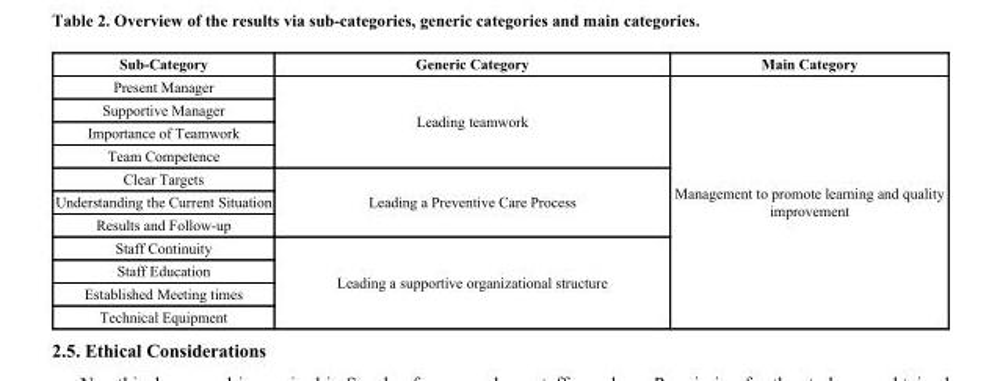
<table><thead><tr><td>Sub-Category</td><td>Generic Category</td><td>Main Category</td></tr></thead><tbody><tr><td>Present Manager</td><td rowspan="4">Leading teamwork</td><td rowspan="11">Management to promote learning and quality improvement</td></tr><tr><td>Supportive Manager</td></tr><tr><td>Importance of Teamwork</td></tr><tr><td>Team Competence</td></tr><tr><td>Clear Targets</td><td rowspan="3">Leading a Preventive Care Process</td></tr><tr><td>Understanding the Current Situation</td></tr><tr><td>Results and Follow-up</td></tr><tr><td>Staff Continuity</td><td rowspan="4">Leading a supportive organizational structure</td></tr><tr><td>Staff Education</td></tr><tr><td>Established Meeting times</td></tr><tr><td>Technical Equipment</td></tr></tbody></table>